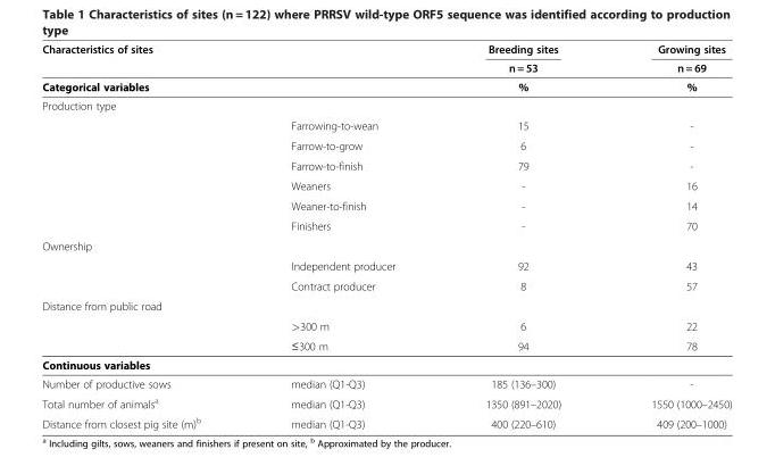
<table><thead><tr><td colspan="2">Characteristics of sites</td><td rowspan="2">Breeding sites n = 53</td><td rowspan="2">Growing sites n = 69</td></tr><tr><td></td><td></td></tr></thead><tbody><tr><td>Categorical variables</td><td></td><td>%</td><td>%</td></tr><tr><td colspan="4">Production type</td></tr><tr><td></td><td>Farrowing-to-wean</td><td>15</td><td>-</td></tr><tr><td></td><td>Farrow-to-grow</td><td>6</td><td>-</td></tr><tr><td></td><td>Farrow-to-finish</td><td>79</td><td>-</td></tr><tr><td></td><td>Weaners</td><td>-</td><td>16</td></tr><tr><td></td><td>Weaner-to-finish</td><td>-</td><td>14</td></tr><tr><td></td><td>Finishers</td><td>-</td><td>70</td></tr><tr><td colspan="4">Ownership</td></tr><tr><td></td><td>Independent producer</td><td>92</td><td>43</td></tr><tr><td></td><td>Contract producer</td><td>8</td><td>57</td></tr><tr><td colspan="4">Distance from public road</td></tr><tr><td></td><td>&gt;300 m</td><td>6</td><td>22</td></tr><tr><td></td><td>≤300 m</td><td>94</td><td>78</td></tr><tr><td colspan="4">Continuous variables</td></tr><tr><td>Number of productive sows</td><td>median (Q1-Q3)</td><td>185 (136–300)</td><td>-</td></tr><tr><td>Total number of animals<sup>a</sup></td><td>median (Q1-Q3)</td><td>1350 (891–2020)</td><td>1550 (1000–2450)</td></tr><tr><td>Distance from closest pig site (m)<sup>b</sup></td><td>median (Q1-Q3)</td><td>400 (220–610)</td><td>409 (200–1000)</td></tr></tbody></table>